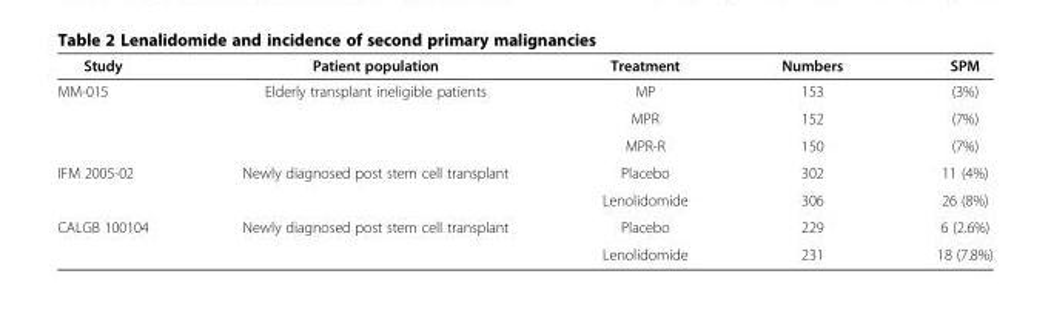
<table><thead><tr><td>Study</td><td>Patient population</td><td>Treatment</td><td>Numbers</td><td>SPM</td></tr></thead><tbody><tr><td rowspan="3">MM-015</td><td rowspan="3">Elderly transplant ineligible patients</td><td>MP</td><td>153</td><td>(3%)</td></tr><tr><td>MPR</td><td>152</td><td>(7%)</td></tr><tr><td>MPR-R</td><td>150</td><td>(7%)</td></tr><tr><td rowspan="2">IFM 2005-02</td><td rowspan="2">Newly diagnosed post stem cell transplant</td><td>Placebo</td><td>302</td><td>11 (4%)</td></tr><tr><td>Lenolidomide</td><td>306</td><td>26 (8%)</td></tr><tr><td rowspan="2">CALGB 100104</td><td rowspan="2">Newly diagnosed post stem cell transplant</td><td>Placebo</td><td>229</td><td>6 (2.6%)</td></tr><tr><td>Lenolidomide</td><td>231</td><td>18 (7.8%)</td></tr></tbody></table>